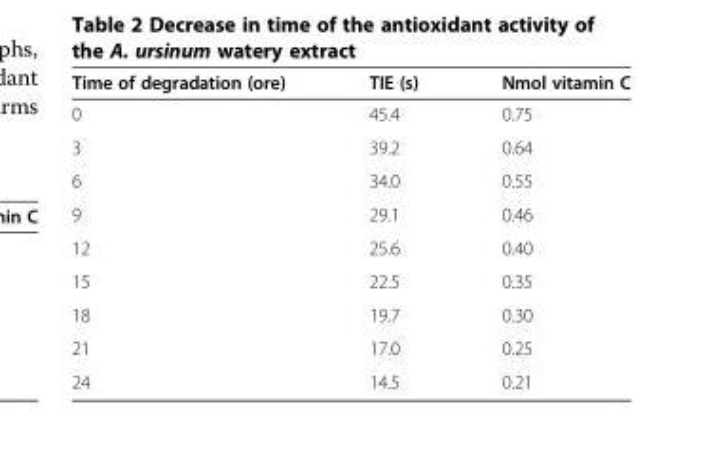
<table><thead><tr><td>Time of degradation (ore)</td><td>TIE (s)</td><td>Nmol vitamin C</td></tr></thead><tbody><tr><td>0</td><td>45.4</td><td>0.75</td></tr><tr><td>3</td><td>39.2</td><td>0.64</td></tr><tr><td>6</td><td>34.0</td><td>0.55</td></tr><tr><td>9</td><td>29.1</td><td>0.46</td></tr><tr><td>12</td><td>25.6</td><td>0.40</td></tr><tr><td>15</td><td>22.5</td><td>0.35</td></tr><tr><td>18</td><td>19.7</td><td>0.30</td></tr><tr><td>21</td><td>17.0</td><td>0.25</td></tr><tr><td>24</td><td>14.5</td><td>0.21</td></tr></tbody></table>